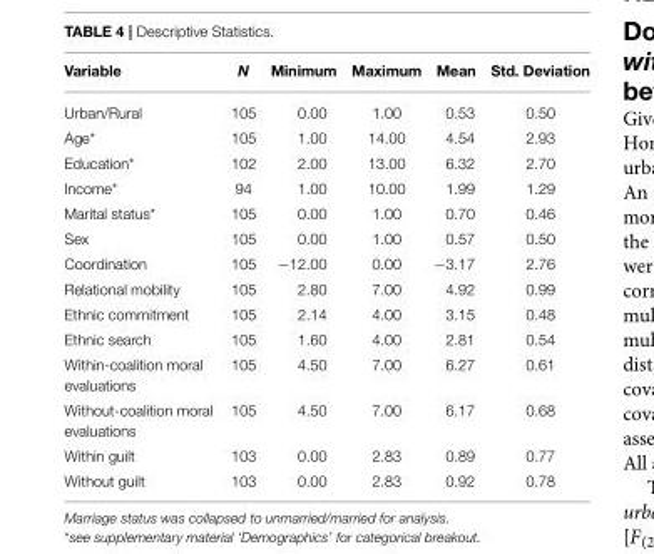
<table><thead><tr><td>Variable</td><td>N</td><td>Minimum</td><td>Maximum</td><td>Mean</td><td>Std. Deviation</td></tr></thead><tbody><tr><td>Urban/Rural</td><td>105</td><td>0.00</td><td>1.00</td><td>0.53</td><td>0.50</td></tr><tr><td>Age*</td><td>105</td><td>1.00</td><td>14.00</td><td>4.54</td><td>2.93</td></tr><tr><td>Education*</td><td>102</td><td>2.00</td><td>13.00</td><td>6.32</td><td>2.70</td></tr><tr><td>Income*</td><td>94</td><td>1.00</td><td>10.00</td><td>1.99</td><td>1.29</td></tr><tr><td>Marital status*</td><td>105</td><td>0.00</td><td>1.00</td><td>0.70</td><td>0.46</td></tr><tr><td>Sex</td><td>105</td><td>0.00</td><td>1.00</td><td>0.57</td><td>0.50</td></tr><tr><td>Coordination</td><td>105</td><td>−12.00</td><td>0.00</td><td>−3.17</td><td>2.76</td></tr><tr><td>Relational mobility</td><td>105</td><td>2.80</td><td>7.00</td><td>4.92</td><td>0.99</td></tr><tr><td>Ethnic commitment</td><td>105</td><td>2.14</td><td>4.00</td><td>3.15</td><td>0.48</td></tr><tr><td>Ethnic search</td><td>105</td><td>1.60</td><td>4.00</td><td>2.81</td><td>0.54</td></tr><tr><td>Within-coalition moral evaluations</td><td>105</td><td>4.50</td><td>7.00</td><td>6.27</td><td>0.61</td></tr><tr><td>Without-coalition moral evaluations</td><td>105</td><td>4.50</td><td>7.00</td><td>6.17</td><td>0.68</td></tr><tr><td>Within guilt</td><td>103</td><td>0.00</td><td>2.83</td><td>0.89</td><td>0.77</td></tr><tr><td>Without guilt</td><td>103</td><td>0.00</td><td>2.83</td><td>0.92</td><td>0.78</td></tr></tbody></table>